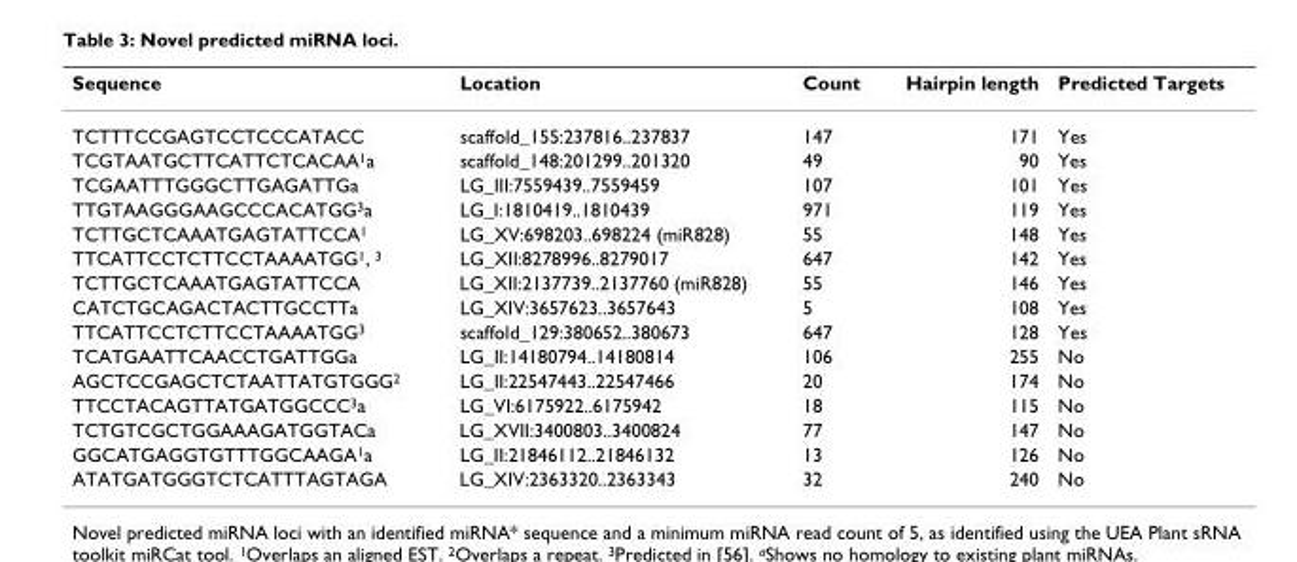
<table><thead><tr><td>Sequence</td><td>Location</td><td>Count</td><td>Hairpin length</td><td>Predicted Targets</td></tr></thead><tbody><tr><td>TCTTTCCGAGTCCTCCCATACC</td><td>scaffold_155:237816..237837</td><td>147</td><td>171</td><td>Yes</td></tr><tr><td>TCGTAATGCTTCATTCTCACAA<sup>1</sup>a</td><td>scaffold_148:201299..201320</td><td>49</td><td>90</td><td>Yes</td></tr><tr><td>TCGAATTTGGGCTTGAGATTGa</td><td>LG_III:7559439..7559459</td><td>107</td><td>101</td><td>Yes</td></tr><tr><td>TTGTAAGGGAAGCCCACATGG<sup>3</sup>a</td><td>LG_I:1810419..1810439</td><td>971</td><td>119</td><td>Yes</td></tr><tr><td>TCTTGCTCAAATGAGTATTCCA<sup>1</sup></td><td>LG_XV:698203..698224 (miR828)</td><td>55</td><td>148</td><td>Yes</td></tr><tr><td>TTCATTCCTCTTCCTAAAATGG<sup>1</sup>, <sup>3</sup></td><td>LG_XII:8278996..8279017</td><td>647</td><td>142</td><td>Yes</td></tr><tr><td>TCTTGCTCAAATGAGTATTCCA</td><td>LG_XII:2137739..2137760 (miR828)</td><td>55</td><td>146</td><td>Yes</td></tr><tr><td>CATCTGCAGACTACTTGCCTTa</td><td>LG_XIV:3657623..3657643</td><td>5</td><td>108</td><td>Yes</td></tr><tr><td>TTCATTCCTCTTCCTAAAATGG<sup>3</sup></td><td>scaffold_129:380652..380673</td><td>647</td><td>128</td><td>Yes</td></tr><tr><td>TCATGAATTCAACCTGATTGGa</td><td>LG_II:14180794..14180814</td><td>106</td><td>255</td><td>No</td></tr><tr><td>AGCTCCGAGCTCTAATTATGTGGG<sup>2</sup></td><td>LG_II:22547443..22547466</td><td>20</td><td>174</td><td>No</td></tr><tr><td>TTCCTACAGTTATGATGGCCC<sup>3</sup>a</td><td>LG_VI:6175922..6175942</td><td>18</td><td>115</td><td>No</td></tr><tr><td>TCTGTCGCTGGAAAGATGGTACa</td><td>LG_XVII:3400803..3400824</td><td>77</td><td>147</td><td>No</td></tr><tr><td>GGCATGAGGTGTTTGGCAAGA<sup>1</sup>a</td><td>LG_II:21846112..21846132</td><td>13</td><td>126</td><td>No</td></tr><tr><td>ATATGATGGGTCTCATTTAGTAGA</td><td>LG_XIV:2363320..2363343</td><td>32</td><td>240</td><td>No</td></tr></tbody></table>